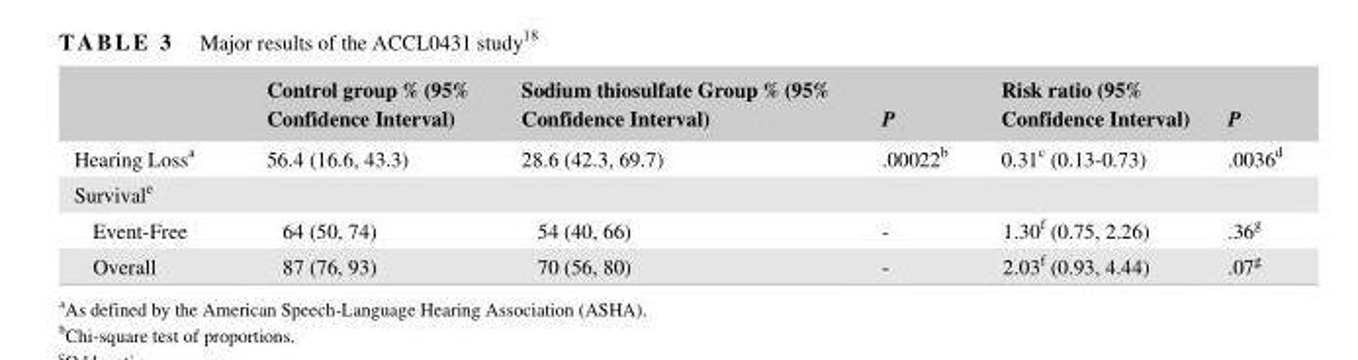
<table><thead><tr><td></td><td>Control group % (95% Confidence Interval)</td><td>Sodium thiosulfate Group % (95% Confidence Interval)</td><td>P</td><td>Risk ratio (95% Confidence Interval)</td><td>P</td></tr></thead><tbody><tr><td>Hearing Loss<sup>a</sup></td><td>56.4 (16.6, 43.3)</td><td>28.6 (42.3, 69.7)</td><td>.00022<sup>b</sup></td><td>0.31<sup>c</sup> (0.13- 0.73)</td><td>.0036<sup>d</sup></td></tr><tr><td colspan="6">Survival<sup>e</sup></td></tr><tr><td>Event- Free</td><td>64 (50, 74)</td><td>54 (40, 66)</td><td>-</td><td>1.30<sup>f</sup> (0.75, 2.26)</td><td>.36<sup>g</sup></td></tr><tr><td>Overall</td><td>87 (76, 93)</td><td>70 (56, 80)</td><td>-</td><td>2.03<sup>f</sup> (0.93, 4.44)</td><td>.07<sup>g</sup></td></tr></tbody></table>